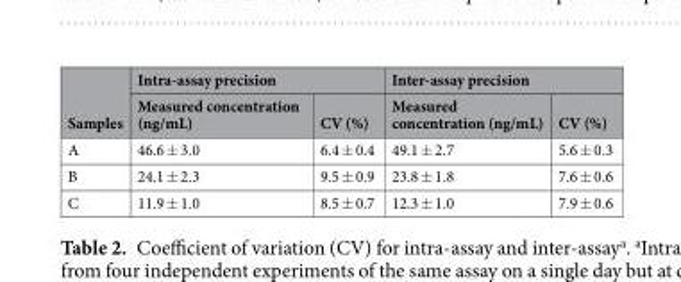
<table><thead><tr><td rowspan="2">Samples</td><td colspan="2">Intra-assay precision</td><td colspan="2">Inter-assay precision</td></tr><tr><td>Measured concentration (ng/mL)</td><td>CV (%)</td><td>Measured concentration (ng/mL)</td><td>CV (%)</td></tr></thead><tbody><tr><td>A</td><td>46.6 ± 3.0</td><td>6.4 ± 0.4</td><td>49.1 ± 2.7</td><td>5.6 ± 0.3</td></tr><tr><td>B</td><td>24.1 ± 2.3</td><td>9.5 ± 0.9</td><td>23.8 ± 1.8</td><td>7.6 ± 0.6</td></tr><tr><td>C</td><td>11.9 ± 1.0</td><td>8.5 ± 0.7</td><td>12.3 ± 1.0</td><td>7.9 ± 0.6</td></tr></tbody></table>